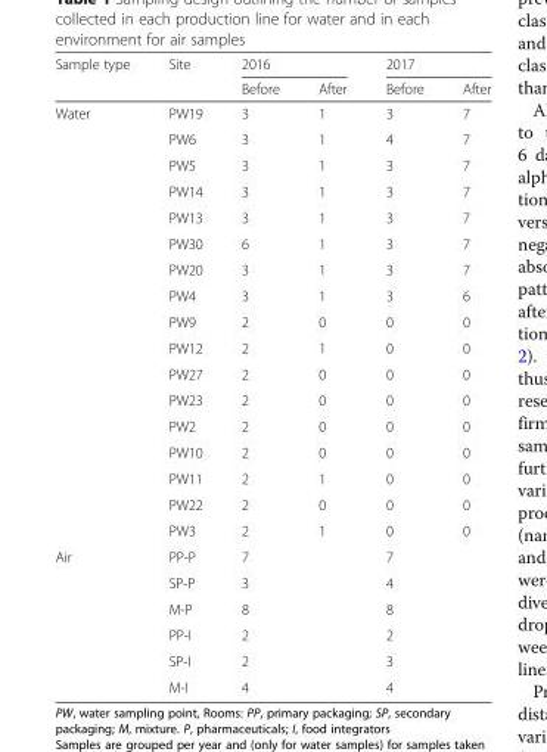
<table><thead><tr><td rowspan="2">Sample type</td><td rowspan="2">Site</td><td colspan="2">2016</td><td colspan="2">2017</td></tr><tr><td>Before</td><td>After</td><td>Before</td><td>After</td></tr></thead><tbody><tr><td rowspan="17">Water</td><td>PW19</td><td>3</td><td>1</td><td>3</td><td>7</td></tr><tr><td>PW6</td><td>3</td><td>1</td><td>4</td><td>7</td></tr><tr><td>PW5</td><td>3</td><td>1</td><td>3</td><td>7</td></tr><tr><td>PW14</td><td>3</td><td>1</td><td>3</td><td>7</td></tr><tr><td>PW13</td><td>3</td><td>1</td><td>3</td><td>7</td></tr><tr><td>PW30</td><td>6</td><td>1</td><td>3</td><td>7</td></tr><tr><td>PW20</td><td>3</td><td>1</td><td>3</td><td>7</td></tr><tr><td>PW4</td><td>3</td><td>1</td><td>3</td><td>6</td></tr><tr><td>PW9</td><td>2</td><td>0</td><td>0</td><td>0</td></tr><tr><td>PW12</td><td>2</td><td>1</td><td>0</td><td>0</td></tr><tr><td>PW27</td><td>2</td><td>0</td><td>0</td><td>0</td></tr><tr><td>PW23</td><td>2</td><td>0</td><td>0</td><td>0</td></tr><tr><td>PW2</td><td>2</td><td>0</td><td>0</td><td>0</td></tr><tr><td>PW10</td><td>2</td><td>0</td><td>0</td><td>0</td></tr><tr><td>PW11</td><td>2</td><td>1</td><td>0</td><td>0</td></tr><tr><td>PW22</td><td>2</td><td>0</td><td>0</td><td>0</td></tr><tr><td>PW3</td><td>2</td><td>1</td><td>0</td><td>0</td></tr><tr><td rowspan="6">Air</td><td>PP-P</td><td colspan="2">7</td><td colspan="2">7</td></tr><tr><td>SP-P</td><td colspan="2">3</td><td colspan="2">4</td></tr><tr><td>M-P</td><td colspan="2">8</td><td colspan="2">8</td></tr><tr><td>PP-I</td><td colspan="2">2</td><td colspan="2">2</td></tr><tr><td>SP-I</td><td colspan="2">2</td><td colspan="2">3</td></tr><tr><td>M-I</td><td colspan="2">4</td><td colspan="2">4</td></tr></tbody></table>